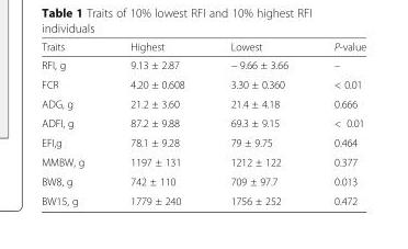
<table><thead><tr><td>Traits</td><td>Highest</td><td>Lowest</td><td>P-value</td></tr></thead><tbody><tr><td>RFI, g</td><td>9.13 ± 2.87</td><td>− 9.66 ± 3.66</td><td>–</td></tr><tr><td>FCR</td><td>4.20 ± 0.608</td><td>3.30 ± 0.360</td><td>&lt; 0.01</td></tr><tr><td>ADG, g</td><td>21.2 ± 3.60</td><td>21.4 ± 4.18</td><td>0.666</td></tr><tr><td>ADFI, g</td><td>87.2 ± 9.88</td><td>69.3 ± 9.15</td><td>&lt; 0.01</td></tr><tr><td>EFI,g</td><td>78.1 ± 9.28</td><td>79 ± 9.75</td><td>0.464</td></tr><tr><td>MMBW, g</td><td>1197 ± 131</td><td>1212 ± 122</td><td>0.377</td></tr><tr><td>BW8, g</td><td>742 ± 110</td><td>709 ± 97.7</td><td>0.013</td></tr><tr><td>BW15, g</td><td>1779 ± 240</td><td>1756 ± 252</td><td>0.472</td></tr></tbody></table>